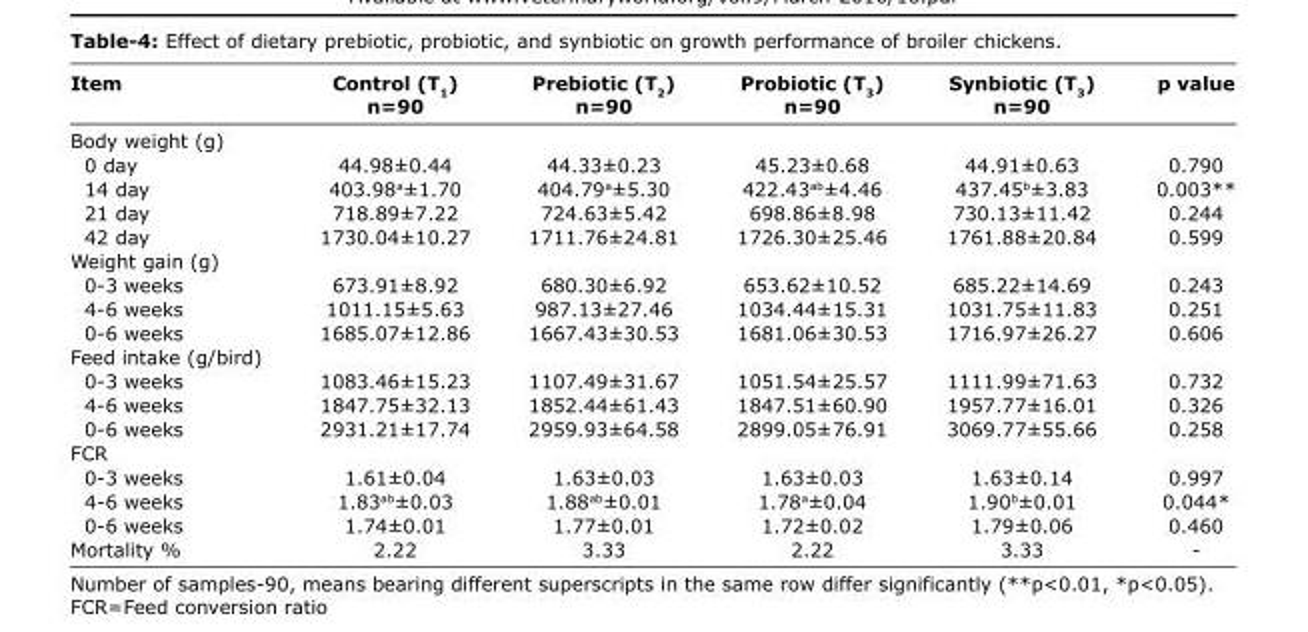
<table><thead><tr><td>Item</td><td>Control (T<sub>1</sub>) n=90</td><td>Prebiotic (T<sub>2</sub>) n=90</td><td>Probiotic (T<sub>3</sub>) n=90</td><td>Synbiotic (T<sub>3</sub>) n=90</td><td>p value</td></tr></thead><tbody><tr><td colspan="6">Body weight (g)</td></tr><tr><td>0 day</td><td>44.98±0.44</td><td>44.33±0.23</td><td>45.23±0.68</td><td>44.91±0.63</td><td>0.790</td></tr><tr><td>14 day</td><td>403.98<sup>a</sup>±1.70</td><td>404.79<sup>a</sup>±5.30</td><td>422.43<sup>ab</sup>±4.46</td><td>437.45<sup>b</sup>±3.83</td><td>0.003**</td></tr><tr><td>21 day</td><td>718.89±7.22</td><td>724.63±5.42</td><td>698.86±8.98</td><td>730.13±11.42</td><td>0.244</td></tr><tr><td>42 day</td><td>1730.04±10.27</td><td>1711.76±24.81</td><td>1726.30±25.46</td><td>1761.88±20.84</td><td>0.599</td></tr><tr><td colspan="6">Weight gain (g)</td></tr><tr><td>0-3 weeks</td><td>673.91±8.92</td><td>680.30±6.92</td><td>653.62±10.52</td><td>685.22±14.69</td><td>0.243</td></tr><tr><td>4-6 weeks</td><td>1011.15±5.63</td><td>987.13±27.46</td><td>1034.44±15.31</td><td>1031.75±11.83</td><td>0.251</td></tr><tr><td>0-6 weeks</td><td>1685.07±12.86</td><td>1667.43±30.53</td><td>1681.06±30.53</td><td>1716.97±26.27</td><td>0.606</td></tr><tr><td colspan="6">Feed intake (g/bird)</td></tr><tr><td>0-3 weeks</td><td>1083.46±15.23</td><td>1107.49±31.67</td><td>1051.54±25.57</td><td>1111.99±71.63</td><td>0.732</td></tr><tr><td>4-6 weeks</td><td>1847.75±32.13</td><td>1852.44±61.43</td><td>1847.51±60.90</td><td>1957.77±16.01</td><td>0.326</td></tr><tr><td>0-6 weeks</td><td>2931.21±17.74</td><td>2959.93±64.58</td><td>2899.05±76.91</td><td>3069.77±55.66</td><td>0.258</td></tr><tr><td colspan="6">FCR</td></tr><tr><td>0-3 weeks</td><td>1.61±0.04</td><td>1.63±0.03</td><td>1.63±0.03</td><td>1.63±0.14</td><td>0.997</td></tr><tr><td>4-6 weeks</td><td>1.83<sup>ab</sup>±0.03</td><td>1.88<sup>ab</sup>±0.01</td><td>1.78<sup>a</sup>±0.04</td><td>1.90<sup>b</sup>±0.01</td><td>0.044*</td></tr><tr><td>0-6 weeks</td><td>1.74±0.01</td><td>1.77±0.01</td><td>1.72±0.02</td><td>1.79±0.06</td><td>0.460</td></tr><tr><td>Mortality %</td><td>2.22</td><td>3.33</td><td>2.22</td><td>3.33</td><td>-</td></tr></tbody></table>